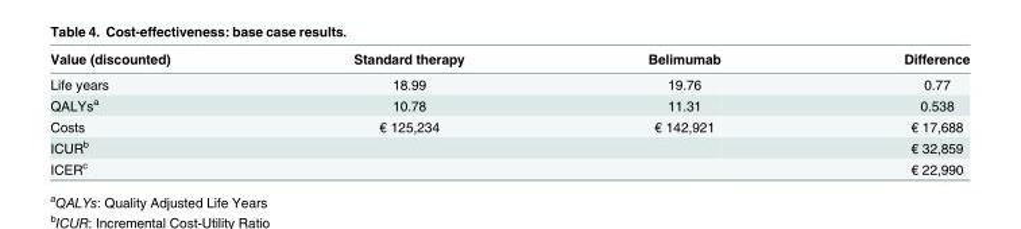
<table><thead><tr><td>Value (discounted)</td><td>Standard therapy</td><td>Belimumab</td><td>Difference</td></tr></thead><tbody><tr><td>Life years</td><td>18.99</td><td>19.76</td><td>0.77</td></tr><tr><td>QALYs<sup>a</sup></td><td>10.78</td><td>11.31</td><td>0.538</td></tr><tr><td>Costs</td><td>€ 125,234</td><td>€ 142,921</td><td>€ 17,688</td></tr><tr><td>ICUR<sup>b</sup></td><td></td><td></td><td>€ 32,859</td></tr><tr><td>ICER<sup>c</sup></td><td></td><td></td><td>€ 22,990</td></tr></tbody></table>